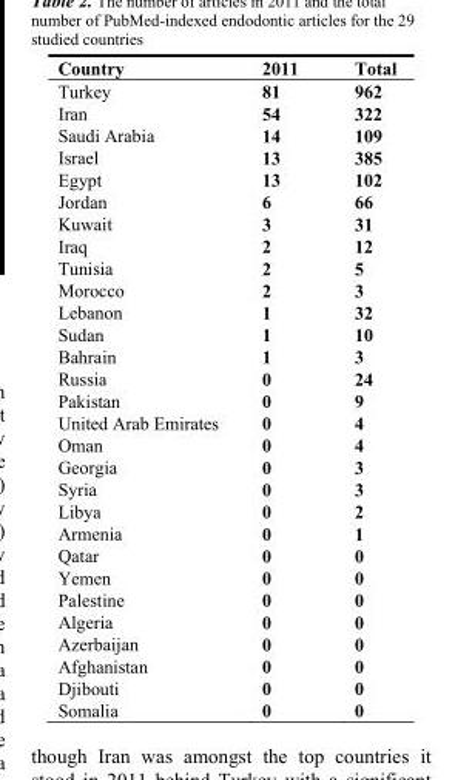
<table><thead><tr><td>Country</td><td>2011</td><td>Total</td></tr></thead><tbody><tr><td>Turkey</td><td>81</td><td>962</td></tr><tr><td>Iran</td><td>54</td><td>322</td></tr><tr><td>Saudi Arabia</td><td>14</td><td>109</td></tr><tr><td>Israel</td><td>13</td><td>385</td></tr><tr><td>Egypt</td><td>13</td><td>102</td></tr><tr><td>Jordan</td><td>6</td><td>66</td></tr><tr><td>Kuwait</td><td>3</td><td>31</td></tr><tr><td>Iraq</td><td>2</td><td>12</td></tr><tr><td>Tunisia</td><td>2</td><td>5</td></tr><tr><td>Morocco</td><td>2</td><td>3</td></tr><tr><td>Lebanon</td><td>1</td><td>32</td></tr><tr><td>Sudan</td><td>1</td><td>10</td></tr><tr><td>Bahrain</td><td>1</td><td>3</td></tr><tr><td>Russia</td><td>0</td><td>24</td></tr><tr><td>Pakistan</td><td>0</td><td>9</td></tr><tr><td>United Arab Emirates</td><td>0</td><td>4</td></tr><tr><td>Oman</td><td>0</td><td>4</td></tr><tr><td>Georgia</td><td>0</td><td>3</td></tr><tr><td>Syria</td><td>0</td><td>3</td></tr><tr><td>Libya</td><td>0</td><td>2</td></tr><tr><td>Armenia</td><td>0</td><td>1</td></tr><tr><td>Qatar</td><td>0</td><td>0</td></tr><tr><td>Yemen</td><td>0</td><td>0</td></tr><tr><td>Palestine</td><td>0</td><td>0</td></tr><tr><td>Algeria</td><td>0</td><td>0</td></tr><tr><td>Azerbaijan</td><td>0</td><td>0</td></tr><tr><td>Afghanistan</td><td>0</td><td>0</td></tr><tr><td>Djibouti</td><td>0</td><td>0</td></tr><tr><td>Somalia</td><td>0</td><td>0</td></tr></tbody></table>